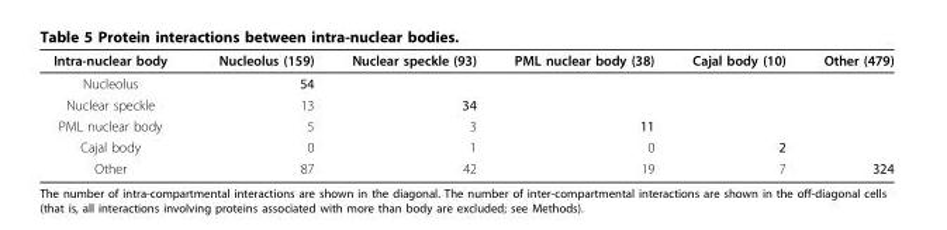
<table><thead><tr><td>Intra-nuclear body</td><td>Nucleolus (159)</td><td>Nuclear speckle (93)</td><td>PML nuclear body (38)</td><td>Cajal body (10)</td><td>Other (479)</td></tr></thead><tbody><tr><td>Nucleolus</td><td>54</td><td></td><td></td><td></td><td></td></tr><tr><td>Nuclear speckle</td><td>13</td><td>34</td><td></td><td></td><td></td></tr><tr><td>PML nuclear body</td><td>5</td><td>3</td><td>11</td><td></td><td></td></tr><tr><td>Cajal body</td><td>0</td><td>1</td><td>0</td><td>2</td><td></td></tr><tr><td>Other</td><td>87</td><td>42</td><td>19</td><td>7</td><td>324</td></tr></tbody></table>